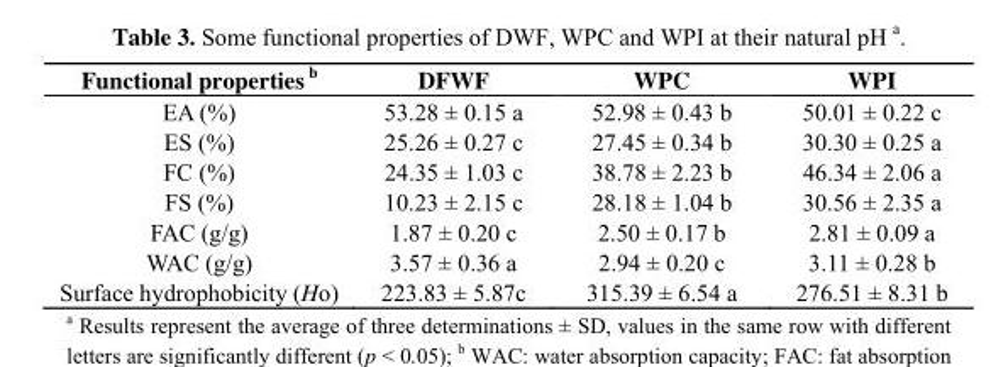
<table><thead><tr><td>Functional properties b</td><td>DFWF</td><td>WPC</td><td>WPI</td></tr></thead><tbody><tr><td>EA (%)</td><td>53.28 ± 0.15 a</td><td>52.98 ± 0.43 b</td><td>50.01 ± 0.22 c</td></tr><tr><td>ES (%)</td><td>25.26 ± 0.27 c</td><td>27.45 ± 0.34 b</td><td>30.30 ± 0.25 a</td></tr><tr><td>FC (%)</td><td>24.35 ± 1.03 c</td><td>38.78 ± 2.23 b</td><td>46.34 ± 2.06 a</td></tr><tr><td>FS (%)</td><td>10.23 ± 2.15 c</td><td>28.18 ± 1.04 b</td><td>30.56 ± 2.35 a</td></tr><tr><td>FAC (g/g)</td><td>1.87 ± 0.20 c</td><td>2.50 ± 0.17 b</td><td>2.81 ± 0.09 a</td></tr><tr><td>WAC (g/g)</td><td>3.57 ± 0.36 a</td><td>2.94 ± 0.20 c</td><td>3.11 ± 0.28 b</td></tr><tr><td>Surface hydrophobicity (Ho)</td><td>223.83 ± 5.87c</td><td>315.39 ± 6.54 a</td><td>276.51 ± 8.31 b</td></tr></tbody></table>